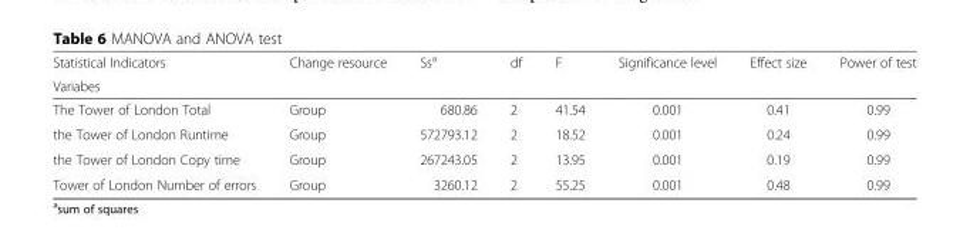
<table><thead><tr><td rowspan="2">Statistical Indicators Variabes</td><td rowspan="2">Change resource</td><td rowspan="2">Ss<sup>a</sup></td><td rowspan="2">df</td><td rowspan="2">F</td><td rowspan="2">Significance level</td><td rowspan="2">Effect size</td><td rowspan="2">Power of test</td></tr><tr></tr></thead><tbody><tr><td>The Tower of London Total</td><td>Group</td><td>680.86</td><td>2</td><td>41.54</td><td>0.001</td><td>0.41</td><td>0.99</td></tr><tr><td>the Tower of London Runtime</td><td>Group</td><td>572793.12</td><td>2</td><td>18.52</td><td>0.001</td><td>0.24</td><td>0.99</td></tr><tr><td>the Tower of London Copy time</td><td>Group</td><td>267243.05</td><td>2</td><td>13.95</td><td>0.001</td><td>0.19</td><td>0.99</td></tr><tr><td>Tower of London Number of errors</td><td>Group</td><td>3260.12</td><td>2</td><td>55.25</td><td>0.001</td><td>0.48</td><td>0.99</td></tr></tbody></table>